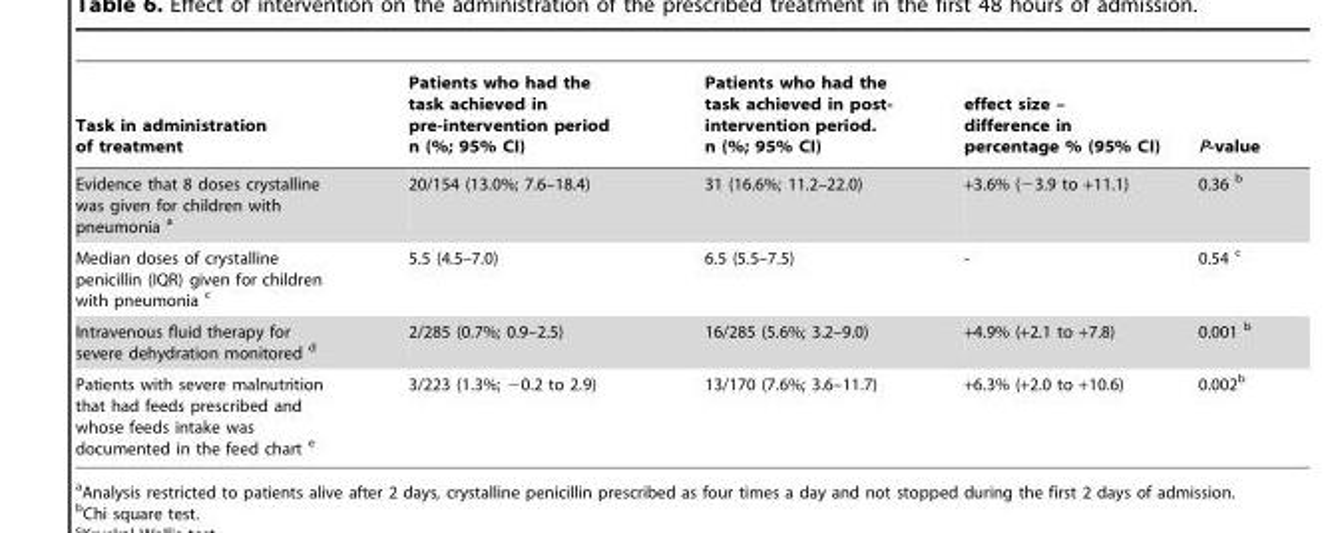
<table><thead><tr><td>Task in administration of treatment</td><td>Patients who had the task achieved in pre-intervention period n (%; 95% CI)</td><td>Patients who had the task achieved in post- intervention period. n (%; 95% CI)</td><td>effect size – difference in percentage % (95% CI)</td><td>P-value</td></tr></thead><tbody><tr><td>Evidence that 8 doses crystalline was given for children with pneumonia a</td><td>20/154 (13.0%; 7.6–18.4)</td><td>31 (16.6%; 11.2–22.0)</td><td>+3.6% (−3.9 to +11.1)</td><td>0.36 b</td></tr><tr><td>Median doses of crystalline penicillin (IQR) given for children with pneumonia c</td><td>5.5 (4.5–7.0)</td><td>6.5 (5.5–7.5)</td><td>-</td><td>0.54 c</td></tr><tr><td>Intravenous fluid therapy for severe dehydration monitored d</td><td>2/285 (0.7%; 0.9–2.5)</td><td>16/285 (5.6%; 3.2–9.0)</td><td>+4.9% (+2.1 to +7.8)</td><td>0.001 b</td></tr><tr><td>Patients with severe malnutrition that had feeds prescribed and whose feeds intake was documented in the feed chart e</td><td>3/223 (1.3%; −0.2 to 2.9)</td><td>13/170 (7.6%; 3.6–11.7)</td><td>+6.3% (+2.0 to +10.6)</td><td>0.002<sup>b</sup></td></tr></tbody></table>